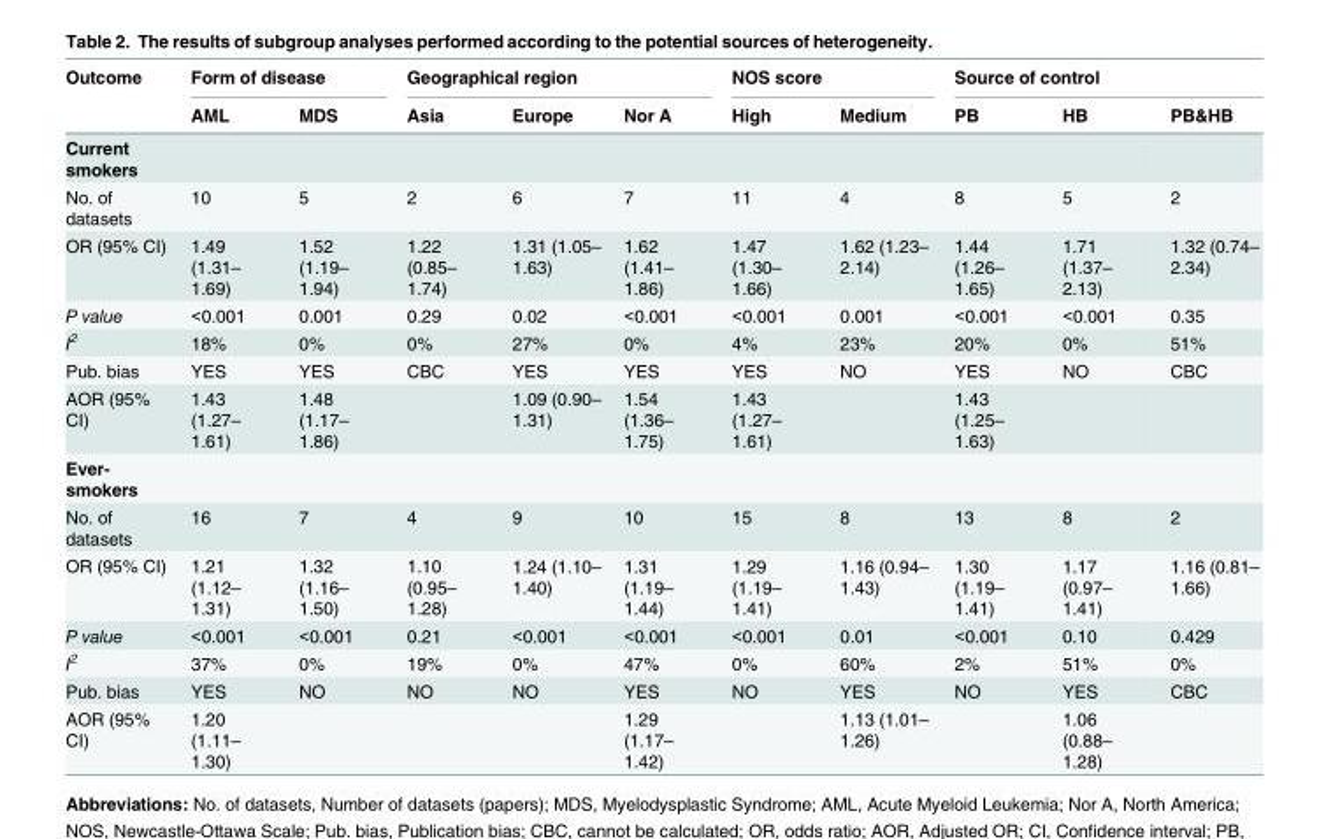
<table><thead><tr><td rowspan="2">Outcome</td><td colspan="2">Form of disease</td><td colspan="3">Geographical region</td><td colspan="2">NOS score</td><td colspan="3">Source of control</td></tr><tr><td>AML</td><td>MDS</td><td>Asia</td><td>Europe</td><td>Nor A</td><td>High</td><td>Medium</td><td>PB</td><td>HB</td><td>PB&amp;HB</td></tr></thead><tbody><tr><td colspan="11">Current smokers</td></tr><tr><td>No. of datasets</td><td>10</td><td>5</td><td>2</td><td>6</td><td>7</td><td>11</td><td>4</td><td>8</td><td>5</td><td>2</td></tr><tr><td>OR (95% CI)</td><td>1.49 (1.31– 1.69)</td><td>1.52 (1.19– 1.94)</td><td>1.22 (0.85– 1.74)</td><td>1.31 (1.05– 1.63)</td><td>1.62 (1.41– 1.86)</td><td>1.47 (1.30– 1.66)</td><td>1.62 (1.23– 2.14)</td><td>1.44 (1.26– 1.65)</td><td>1.71 (1.37– 2.13)</td><td>1.32 (0.74– 2.34)</td></tr><tr><td>P value</td><td>&lt;0.001</td><td>0.001</td><td>0.29</td><td>0.02</td><td>&lt;0.001</td><td>&lt;0.001</td><td>0.001</td><td>&lt;0.001</td><td>&lt;0.001</td><td>0.35</td></tr><tr><td>I<sup>2</sup></td><td>18%</td><td>0%</td><td>0%</td><td>27%</td><td>0%</td><td>4%</td><td>23%</td><td>20%</td><td>0%</td><td>51%</td></tr><tr><td>Pub. bias</td><td>YES</td><td>YES</td><td>CBC</td><td>YES</td><td>YES</td><td>YES</td><td>NO</td><td>YES</td><td>NO</td><td>CBC</td></tr><tr><td>AOR (95% CI)</td><td>1.43 (1.27– 1.61)</td><td>1.48 (1.17– 1.86)</td><td></td><td>1.09 (0.90– 1.31)</td><td>1.54 (1.36– 1.75)</td><td>1.43 (1.27– 1.61)</td><td></td><td>1.43 (1.25– 1.63)</td><td></td><td></td></tr><tr><td colspan="11">Ever- smokers</td></tr><tr><td>No. of datasets</td><td>16</td><td>7</td><td>4</td><td>9</td><td>10</td><td>15</td><td>8</td><td>13</td><td>8</td><td>2</td></tr><tr><td>OR (95% CI)</td><td>1.21 (1.12– 1.31)</td><td>1.32 (1.16– 1.50)</td><td>1.10 (0.95– 1.28)</td><td>1.24 (1.10– 1.40)</td><td>1.31 (1.19– 1.44)</td><td>1.29 (1.19– 1.41)</td><td>1.16 (0.94– 1.43)</td><td>1.30 (1.19– 1.41)</td><td>1.17 (0.97– 1.41)</td><td>1.16 (0.81– 1.66)</td></tr><tr><td>P value</td><td>&lt;0.001</td><td>&lt;0.001</td><td>0.21</td><td>&lt;0.001</td><td>&lt;0.001</td><td>&lt;0.001</td><td>0.01</td><td>&lt;0.001</td><td>0.10</td><td>0.429</td></tr><tr><td>I<sup>2</sup></td><td>37%</td><td>0%</td><td>19%</td><td>0%</td><td>47%</td><td>0%</td><td>60%</td><td>2%</td><td>51%</td><td>0%</td></tr><tr><td>Pub. bias</td><td>YES</td><td>NO</td><td>NO</td><td>NO</td><td>YES</td><td>NO</td><td>YES</td><td>NO</td><td>YES</td><td>CBC</td></tr><tr><td>AOR (95% CI)</td><td>1.20 (1.11– 1.30)</td><td></td><td></td><td></td><td>1.29 (1.17– 1.42)</td><td></td><td>1.13 (1.01– 1.26)</td><td></td><td>1.06 (0.88– 1.28)</td><td></td></tr></tbody></table>